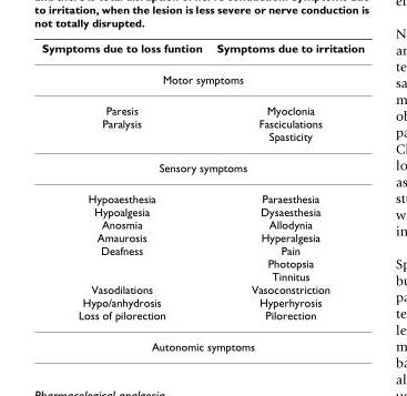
<table><thead><tr><td>Symptoms due to loss funtion</td><td>Symptoms due to irritation</td></tr></thead><tbody><tr><td colspan="2">Motor symptoms</td></tr><tr><td>Paresis Paralysis</td><td>Myoclonia Fasciculations Spasticity</td></tr><tr><td colspan="2">Sensory symptoms</td></tr><tr><td>Hypoaesthesia Hypoalgesia Anosmia Amaurosis Deafness Vasodilations Hypo/anhydrosis Loss of pilorection</td><td>Paraesthesia Dysaesthesia Allodynia Hyperalgesia Pain Photopsia Tinnitus Vasoconstriction Hyperhyrosis Pilorection</td></tr><tr><td colspan="2">Autonomic symptoms</td></tr></tbody></table>